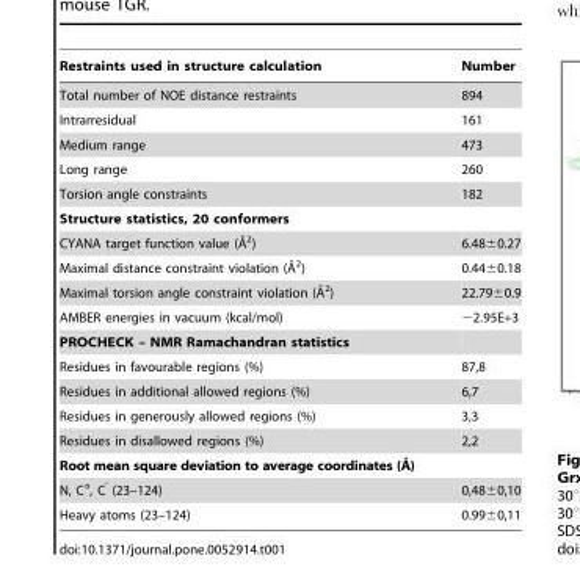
<table><thead><tr><td>Restraints used in structure calculation</td><td>Number</td></tr></thead><tbody><tr><td>Total number of NOE distance restraints</td><td>894</td></tr><tr><td>Intrarresidual</td><td>161</td></tr><tr><td>Medium range</td><td>473</td></tr><tr><td>Long range</td><td>260</td></tr><tr><td>Torsion angle constraints</td><td>182</td></tr><tr><td colspan="2">Structure statistics, 20 conformers</td></tr><tr><td>CYANA target function value (A˚2)</td><td>6.48±0.27</td></tr><tr><td>Maximal distance constraint violation (A˚ 2)</td><td>0.44±0.18</td></tr><tr><td>Maximal torsion angle constraint violation (A˚ 2)</td><td>22.79±0.9</td></tr><tr><td>AMBER energies in vacuum (kcal/mol)</td><td>−2.95E+3</td></tr><tr><td colspan="2">PROCHECK – NMR Ramachandran statistics</td></tr><tr><td>Residues in favourable regions (%)</td><td>87,8</td></tr><tr><td>Residues in additional allowed regions (%)</td><td>6,7</td></tr><tr><td>Residues in generously allowed regions (%)</td><td>3,3</td></tr><tr><td>Residues in disallowed regions (%)</td><td>2,2</td></tr><tr><td colspan="2">Root mean square deviation to average coordinates (A˚)</td></tr><tr><td>N, C<sup>α</sup>, C<sup>’</sup> (23–124)</td><td>0,48±0,10</td></tr><tr><td>Heavy atoms (23–124)</td><td>0.99±0,11</td></tr></tbody></table>